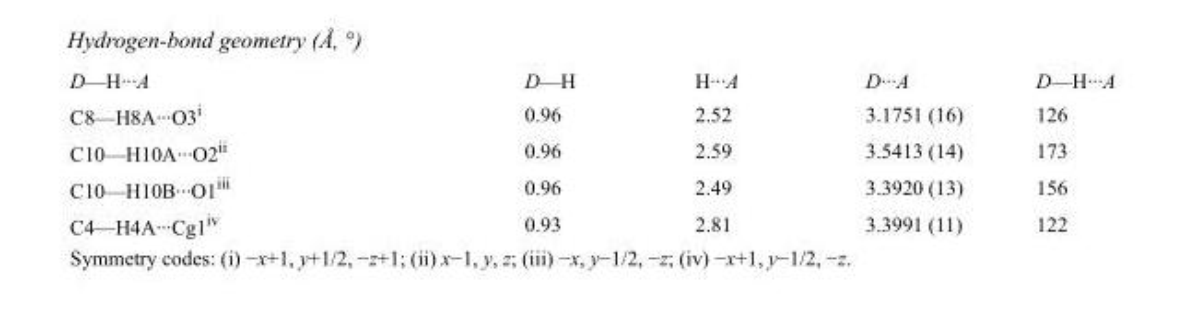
<table><tbody><tr><td>D—H···A</td><td>D—H</td><td>H···A</td><td>D···A</td><td>D—H···A</td></tr><tr><td>C8—H8A···O3<sup>i</sup></td><td>0.96</td><td>2.52</td><td>3.1751 (16)</td><td>126</td></tr><tr><td>C10—H10A···O2<sup>ii</sup></td><td>0.96</td><td>2.59</td><td>3.5413 (14)</td><td>173</td></tr><tr><td>C10—H10B···O1<sup>iii</sup></td><td>0.96</td><td>2.49</td><td>3.3920 (13)</td><td>156</td></tr><tr><td>C4—H4A···Cg1<sup>iv</sup></td><td>0.93</td><td>2.81</td><td>3.3991 (11)</td><td>122</td></tr></tbody></table>